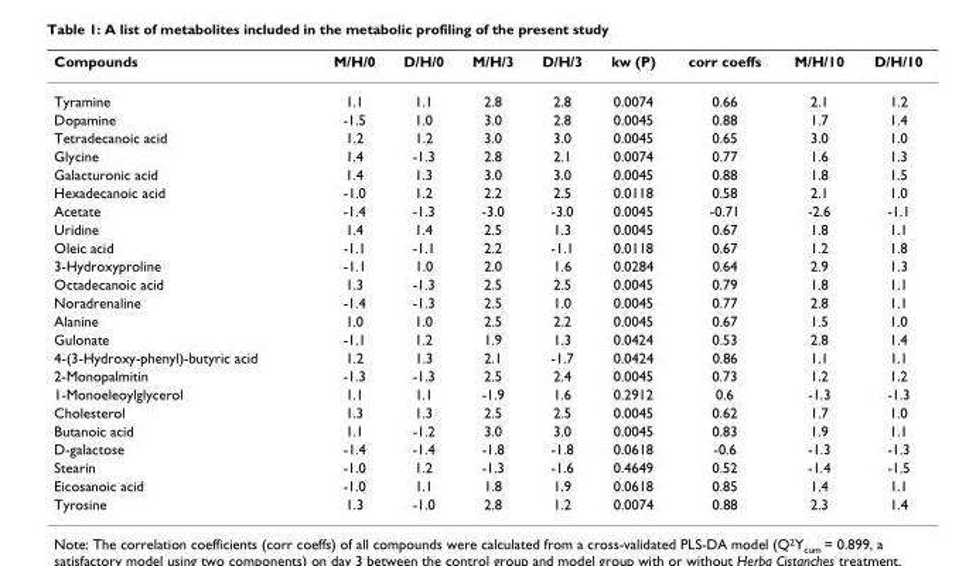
<table><thead><tr><td>Compounds</td><td>M/H/0</td><td>D/H/0</td><td>M/H/3</td><td>D/H/3</td><td>kw (P)</td><td>corr coeffs</td><td>M/H/10</td><td>D/H/10</td></tr></thead><tbody><tr><td>Tyramine</td><td>1.1</td><td>1.1</td><td>2.8</td><td>2.8</td><td>0.0074</td><td>0.66</td><td>2.1</td><td>1.2</td></tr><tr><td>Dopamine</td><td>-1.5</td><td>1.0</td><td>3.0</td><td>2.8</td><td>0.0045</td><td>0.88</td><td>1.7</td><td>1.4</td></tr><tr><td>Tetradecanoic acid</td><td>1.2</td><td>1.2</td><td>3.0</td><td>3.0</td><td>0.0045</td><td>0.65</td><td>3.0</td><td>1.0</td></tr><tr><td>Glycine</td><td>1.4</td><td>-1.3</td><td>2.8</td><td>2.1</td><td>0.0074</td><td>0.77</td><td>1.6</td><td>1.3</td></tr><tr><td>Galacturonic acid</td><td>1.4</td><td>1.3</td><td>3.0</td><td>3.0</td><td>0.0045</td><td>0.88</td><td>1.8</td><td>1.5</td></tr><tr><td>Hexadecanoic acid</td><td>-1.0</td><td>1.2</td><td>2.2</td><td>2.5</td><td>0.0118</td><td>0.58</td><td>2.1</td><td>1.0</td></tr><tr><td>Acetate</td><td>-1.4</td><td>-1.3</td><td>-3.0</td><td>-3.0</td><td>0.0045</td><td>-0.71</td><td>-2.6</td><td>-1.1</td></tr><tr><td>Uridine</td><td>1.4</td><td>1.4</td><td>2.5</td><td>1.3</td><td>0.0045</td><td>0.67</td><td>1.8</td><td>1.1</td></tr><tr><td>Oleic acid</td><td>-1.1</td><td>-1.1</td><td>2.2</td><td>-1.1</td><td>0.0118</td><td>0.67</td><td>1.2</td><td>1.8</td></tr><tr><td>3-Hydroxyproline</td><td>-1.1</td><td>1.0</td><td>2.0</td><td>1.6</td><td>0.0284</td><td>0.64</td><td>2.9</td><td>1.3</td></tr><tr><td>Octadecanoic acid</td><td>1.3</td><td>-1.3</td><td>2.5</td><td>2.5</td><td>0.0045</td><td>0.79</td><td>1.8</td><td>1.1</td></tr><tr><td>Noradrenaline</td><td>-1.4</td><td>-1.3</td><td>2.5</td><td>1.0</td><td>0.0045</td><td>0.77</td><td>2.8</td><td>1.1</td></tr><tr><td>Alanine</td><td>1.0</td><td>1.0</td><td>2.5</td><td>2.2</td><td>0.0045</td><td>0.67</td><td>1.5</td><td>1.0</td></tr><tr><td>Gulonate</td><td>-1.1</td><td>1.2</td><td>1.9</td><td>1.3</td><td>0.0424</td><td>0.53</td><td>2.8</td><td>1.4</td></tr><tr><td>4-(3-Hydroxy-phenyl)-butyric acid</td><td>1.2</td><td>1.3</td><td>2.1</td><td>-1.7</td><td>0.0424</td><td>0.86</td><td>1.1</td><td>1.1</td></tr><tr><td>2-Monopalmitin</td><td>-1.3</td><td>-1.3</td><td>2.5</td><td>2.4</td><td>0.0045</td><td>0.73</td><td>1.2</td><td>1.2</td></tr><tr><td>1-Monoeleoylglycerol</td><td>1.1</td><td>1.1</td><td>-1.9</td><td>1.6</td><td>0.2912</td><td>0.6</td><td>-1.3</td><td>-1.3</td></tr><tr><td>Cholesterol</td><td>1.3</td><td>1.3</td><td>2.5</td><td>2.5</td><td>0.0045</td><td>0.62</td><td>1.7</td><td>1.0</td></tr><tr><td>Butanoic acid</td><td>1.1</td><td>-1.2</td><td>3.0</td><td>3.0</td><td>0.0045</td><td>0.83</td><td>1.9</td><td>1.1</td></tr><tr><td>D-galactose</td><td>-1.4</td><td>-1.4</td><td>-1.8</td><td>-1.8</td><td>0.0618</td><td>-0.6</td><td>-1.3</td><td>-1.3</td></tr><tr><td>Stearin</td><td>-1.0</td><td>1.2</td><td>-1.3</td><td>-1.6</td><td>0.4649</td><td>0.52</td><td>-1.4</td><td>-1.5</td></tr><tr><td>Eicosanoic acid</td><td>-1.0</td><td>1.1</td><td>1.8</td><td>1.9</td><td>0.0618</td><td>0.85</td><td>1.4</td><td>1.1</td></tr><tr><td>Tyrosine</td><td>1.3</td><td>-1.0</td><td>2.8</td><td>1.2</td><td>0.0074</td><td>0.88</td><td>2.3</td><td>1.4</td></tr></tbody></table>